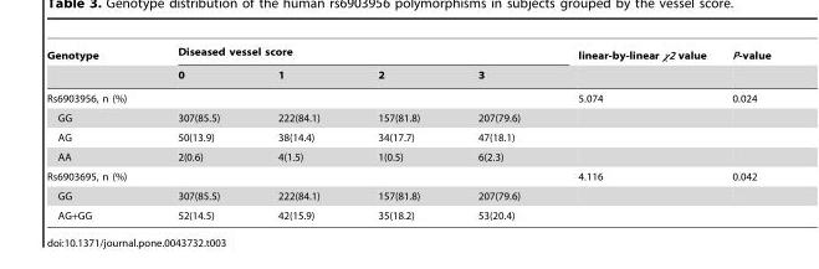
<table><thead><tr><td rowspan="2">Genotype</td><td colspan="4">Diseased vessel score</td><td rowspan="2">linear-by-linear χ2 value</td><td rowspan="2">P-value</td></tr><tr><td>0</td><td>1</td><td>2</td><td>3</td></tr></thead><tbody><tr><td>Rs6903956, n (%)</td><td></td><td></td><td></td><td></td><td>5.074</td><td>0.024</td></tr><tr><td>GG</td><td>307(85.5)</td><td>222(84.1)</td><td>157(81.8)</td><td>207(79.6)</td><td></td><td></td></tr><tr><td>AG</td><td>50(13.9)</td><td>38(14.4)</td><td>34(17.7)</td><td>47(18.1)</td><td></td><td></td></tr><tr><td>AA</td><td>2(0.6)</td><td>4(1.5)</td><td>1(0.5)</td><td>6(2.3)</td><td></td><td></td></tr><tr><td>Rs6903695, n (%)</td><td></td><td></td><td></td><td></td><td>4.116</td><td>0.042</td></tr><tr><td>GG</td><td>307(85.5)</td><td>222(84.1)</td><td>157(81.8)</td><td>207(79.6)</td><td></td><td></td></tr><tr><td>AG+GG</td><td>52(14.5)</td><td>42(15.9)</td><td>35(18.2)</td><td>53(20.4)</td><td></td><td></td></tr></tbody></table>